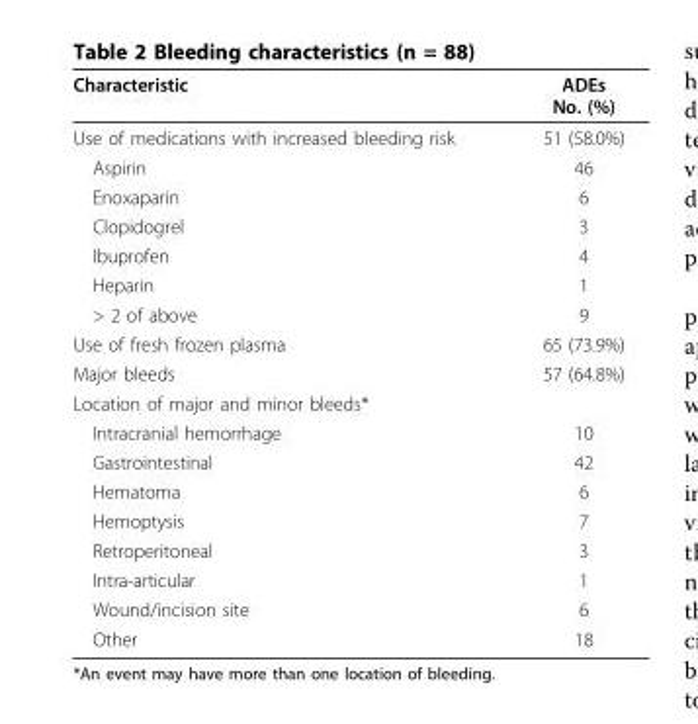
<table><thead><tr><td>Characteristic</td><td>ADEs No. (%)</td></tr></thead><tbody><tr><td>Use of medications with increased bleeding risk</td><td>51 (58.0%)</td></tr><tr><td>Aspirin</td><td>46</td></tr><tr><td>Enoxaparin</td><td>6</td></tr><tr><td>Clopidogrel</td><td>3</td></tr><tr><td>Ibuprofen</td><td>4</td></tr><tr><td>Heparin</td><td>1</td></tr><tr><td>&gt; 2 of above</td><td>9</td></tr><tr><td>Use of fresh frozen plasma</td><td>65 (73.9%)</td></tr><tr><td>Major bleeds</td><td>57 (64.8%)</td></tr><tr><td colspan="2">Location of major and minor bleeds*</td></tr><tr><td>Intracranial hemorrhage</td><td>10</td></tr><tr><td>Gastrointestinal</td><td>42</td></tr><tr><td>Hematoma</td><td>6</td></tr><tr><td>Hemoptysis</td><td>7</td></tr><tr><td>Retroperitoneal</td><td>3</td></tr><tr><td>Intra-articular</td><td>1</td></tr><tr><td>Wound/incision site</td><td>6</td></tr><tr><td>Other</td><td>18</td></tr></tbody></table>